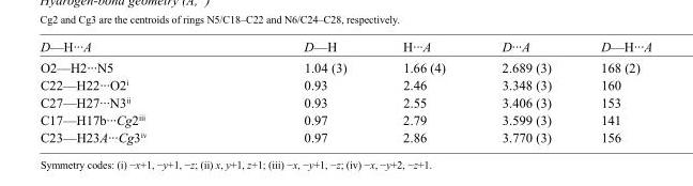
<table><tbody><tr><td>D—H···A</td><td>D—H</td><td>H···A</td><td>D···A</td><td>D—H···A</td></tr><tr><td>O2—H2···N5</td><td>1.04 (3)</td><td>1.66 (4)</td><td>2.689 (3)</td><td>168 (2)</td></tr><tr><td>C22—H22···O2<sup>i</sup></td><td>0.93</td><td>2.46</td><td>3.348 (3)</td><td>160</td></tr><tr><td>C27—H27···N3<sup>ii</sup></td><td>0.93</td><td>2.55</td><td>3.406 (3)</td><td>153</td></tr><tr><td>C17—H17b···Cg2<sup>iii</sup></td><td>0.97</td><td>2.79</td><td>3.599 (3)</td><td>141</td></tr><tr><td>C23—H23A···Cg3<sup>iv</sup></td><td>0.97</td><td>2.86</td><td>3.770 (3)</td><td>156</td></tr></tbody></table>